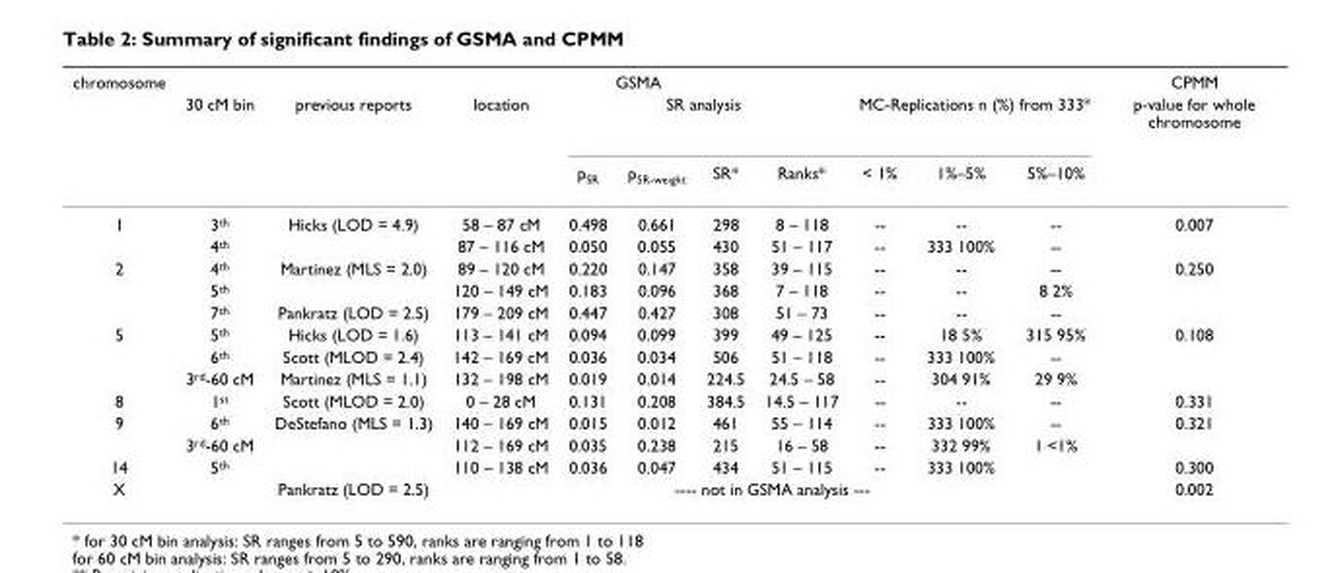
<table><thead><tr><td rowspan="3">chromosome</td><td colspan="10">GSMA</td><td rowspan="3">CPMM p-value for whole chromosome</td></tr><tr><td rowspan="2">30 cM bin</td><td rowspan="2">previous reports</td><td rowspan="2">location</td><td colspan="4">SR analysis</td><td colspan="3">MC-Replications n (%) from 333*</td></tr><tr><td>p<sub>SR</sub></td><td>p<sub>SR-weight</sub></td><td>SR*</td><td>Ranks*</td><td>&lt; 1%</td><td>1%–5%</td><td>5%–10%</td></tr></thead><tbody><tr><td rowspan="2">1</td><td>3<sup>th</sup></td><td>Hicks (LOD = 4.9)</td><td>58 – 87 cM</td><td>0.498</td><td>0.661</td><td>298</td><td>8 – 118</td><td>--</td><td>--</td><td>--</td><td>0.007</td></tr><tr><td>4<sup>th</sup></td><td></td><td>87 – 116 cM</td><td>0.050</td><td>0.055</td><td>430</td><td>51 – 117</td><td>--</td><td>333 100%</td><td>--</td><td></td></tr><tr><td rowspan="3">2</td><td>4<sup>th</sup></td><td>Martinez (MLS = 2.0)</td><td>89 – 120 cM</td><td>0.220</td><td>0.147</td><td>358</td><td>39 – 115</td><td>--</td><td>--</td><td>--</td><td>0.250</td></tr><tr><td>5<sup>th</sup></td><td></td><td>120 – 149 cM</td><td>0.183</td><td>0.096</td><td>368</td><td>7 – 118</td><td>--</td><td>--</td><td>8 2%</td><td></td></tr><tr><td>7<sup>th</sup></td><td>Pankratz (LOD = 2.5)</td><td>179 – 209 cM</td><td>0.447</td><td>0.427</td><td>308</td><td>51 – 73</td><td>--</td><td>--</td><td>--</td><td></td></tr><tr><td rowspan="3">5</td><td>5<sup>th</sup></td><td>Hicks (LOD = 1.6)</td><td>113 – 141 cM</td><td>0.094</td><td>0.099</td><td>399</td><td>49 – 125</td><td>--</td><td>18 5%</td><td>315 95%</td><td>0.108</td></tr><tr><td>6<sup>th</sup></td><td>Scott (MLOD = 2.4)</td><td>142 – 169 cM</td><td>0.036</td><td>0.034</td><td>506</td><td>51 – 118</td><td>--</td><td>333 100%</td><td>--</td><td></td></tr><tr><td>3<sup>rd</sup>-60 cM</td><td>Martinez (MLS = 1.1)</td><td>132 – 198 cM</td><td>0.019</td><td>0.014</td><td>224.5</td><td>24.5 – 58</td><td>--</td><td>304 91%</td><td>29 9%</td><td></td></tr><tr><td>8</td><td>1<sup>st</sup></td><td>Scott (MLOD = 2.0)</td><td>0 – 28 cM</td><td>0.131</td><td>0.208</td><td>384.5</td><td>14.5 – 117</td><td>--</td><td>--</td><td>--</td><td>0.331</td></tr><tr><td rowspan="2">9</td><td>6<sup>th</sup></td><td>DeStefano (MLS = 1.3)</td><td>140 – 169 cM</td><td>0.015</td><td>0.012</td><td>461</td><td>55 – 114</td><td>--</td><td>333 100%</td><td>--</td><td>0.321</td></tr><tr><td>3<sup>rd</sup>-60 cM</td><td></td><td>112 – 169 cM</td><td>0.035</td><td>0.238</td><td>215</td><td>16 – 58</td><td>--</td><td>332 99%</td><td>1 &lt;1%</td><td></td></tr><tr><td>14</td><td>5<sup>th</sup></td><td></td><td>110 – 138 cM</td><td>0.036</td><td>0.047</td><td>434</td><td>51 – 115</td><td>--</td><td>333 100%</td><td></td><td>0.300</td></tr><tr><td>X</td><td></td><td>Pankratz (LOD = 2.5)</td><td colspan="8">---- not in GSMA analysis ---</td><td>0.002</td></tr></tbody></table>